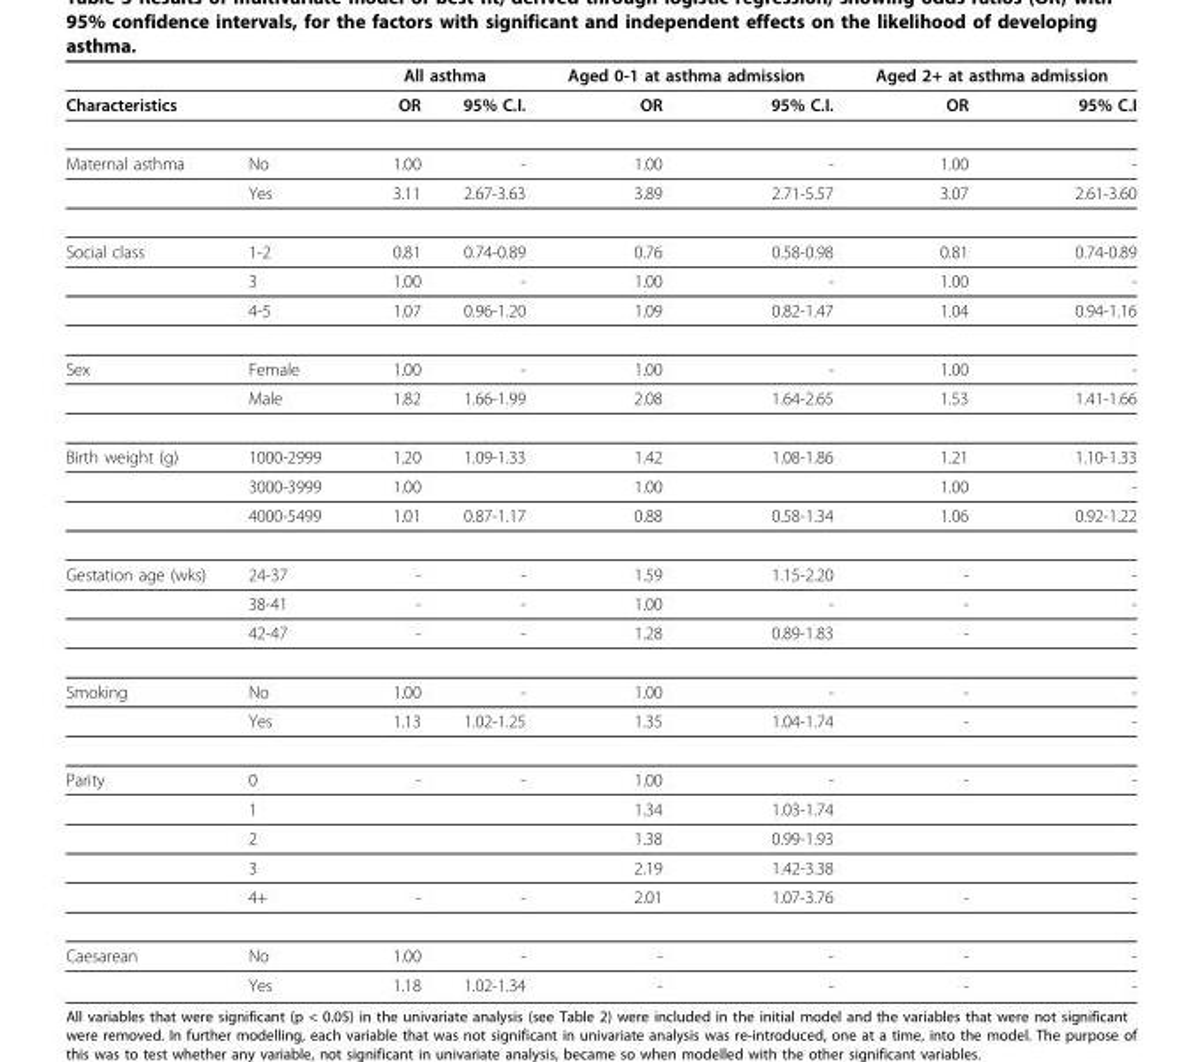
<table><thead><tr><td rowspan="2">Characteristics</td><td rowspan="2"></td><td colspan="2">All asthma</td><td colspan="2">Aged 0-1 at asthma admission</td><td colspan="2">Aged 2+ at asthma admission</td></tr><tr><td>OR</td><td>95% C.I.</td><td>OR</td><td>95% C.I.</td><td>OR</td><td>95% C.I</td></tr></thead><tbody><tr><td rowspan="2">Maternal asthma</td><td>No</td><td>1.00</td><td>-</td><td>1.00</td><td>-</td><td>1.00</td><td>-</td></tr><tr><td>Yes</td><td>3.11</td><td>2.67-3.63</td><td>3.89</td><td>2.71-5.57</td><td>3.07</td><td>2.61-3.60</td></tr><tr><td rowspan="3">Social class</td><td>1-2</td><td>0.81</td><td>0.74-0.89</td><td>0.76</td><td>0.58-0.98</td><td>0.81</td><td>0.74-0.89</td></tr><tr><td>3</td><td>1.00</td><td>-</td><td>1.00</td><td>-</td><td>1.00</td><td>-</td></tr><tr><td>4-5</td><td>1.07</td><td>0.96-1.20</td><td>1.09</td><td>0.82-1.47</td><td>1.04</td><td>0.94-1.16</td></tr><tr><td rowspan="2">Sex</td><td>Female</td><td>1.00</td><td>-</td><td>1.00</td><td>-</td><td>1.00</td><td>-</td></tr><tr><td>Male</td><td>1.82</td><td>1.66-1.99</td><td>2.08</td><td>1.64-2.65</td><td>1.53</td><td>1.41-1.66</td></tr><tr><td rowspan="3">Birth weight (g)</td><td>1000-2999</td><td>1.20</td><td>1.09-1.33</td><td>1.42</td><td>1.08-1.86</td><td>1.21</td><td>1.10-1.33</td></tr><tr><td>3000-3999</td><td>1.00</td><td></td><td>1.00</td><td></td><td>1.00</td><td>-</td></tr><tr><td>4000-5499</td><td>1.01</td><td>0.87-1.17</td><td>0.88</td><td>0.58-1.34</td><td>1.06</td><td>0.92-1.22</td></tr><tr><td rowspan="3">Gestation age (wks)</td><td>24-37</td><td>-</td><td>-</td><td>1.59</td><td>1.15-2.20</td><td>-</td><td>-</td></tr><tr><td>38-41</td><td>-</td><td>-</td><td>1.00</td><td>-</td><td>-</td><td>-</td></tr><tr><td>42-47</td><td>-</td><td>-</td><td>1.28</td><td>0.89-1.83</td><td>-</td><td>-</td></tr><tr><td rowspan="2">Smoking</td><td>No</td><td>1.00</td><td>-</td><td>1.00</td><td>-</td><td>-</td><td>-</td></tr><tr><td>Yes</td><td>1.13</td><td>1.02-1.25</td><td>1.35</td><td>1.04-1.74</td><td>-</td><td>-</td></tr><tr><td rowspan="5">Parity</td><td>0</td><td>-</td><td>-</td><td>1.00</td><td>-</td><td>-</td><td>-</td></tr><tr><td>1</td><td></td><td></td><td>1.34</td><td>1.03-1.74</td><td></td><td></td></tr><tr><td>2</td><td></td><td></td><td>1.38</td><td>0.99-1.93</td><td></td><td></td></tr><tr><td>3</td><td></td><td></td><td>2.19</td><td>1.42-3.38</td><td></td><td></td></tr><tr><td>4+</td><td>-</td><td>-</td><td>2.01</td><td>1.07-3.76</td><td>-</td><td>-</td></tr><tr><td rowspan="2">Caesarean</td><td>No</td><td>1.00</td><td>-</td><td>-</td><td>-</td><td>-</td><td>-</td></tr><tr><td>Yes</td><td>1.18</td><td>1.02-1.34</td><td>-</td><td>-</td><td>-</td><td>-</td></tr></tbody></table>